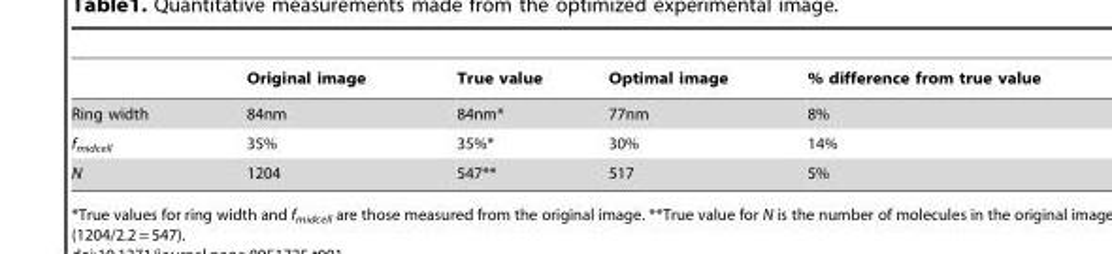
<table><thead><tr><td></td><td>Original image</td><td>True value</td><td>Optimal image</td><td>% difference from true value</td></tr></thead><tbody><tr><td>Ring width</td><td>84nm</td><td>84nm*</td><td>77nm</td><td>8%</td></tr><tr><td>f<sub>midcell</sub></td><td>35%</td><td>35%*</td><td>30%</td><td>14%</td></tr><tr><td>N</td><td>1204</td><td>547**</td><td>517</td><td>5%</td></tr></tbody></table>